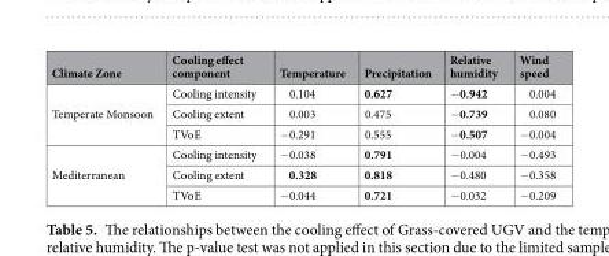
<table><thead><tr><td>Climate Zone</td><td>Cooling effect component</td><td>Temperature</td><td>Precipitation</td><td>Relative humidity</td><td>Wind speed</td></tr></thead><tbody><tr><td rowspan="3">Temperate Monsoon</td><td>Cooling intensity</td><td>0.104</td><td>0.627</td><td>−0.942</td><td>0.004</td></tr><tr><td>Cooling extent</td><td>0.003</td><td>0.475</td><td>−0.739</td><td>0.080</td></tr><tr><td>TVoE</td><td>−0.291</td><td>0.555</td><td>−0.507</td><td>−0.004</td></tr><tr><td rowspan="3">Mediterranean</td><td>Cooling intensity</td><td>−0.038</td><td>0.791</td><td>−0.004</td><td>−0.493</td></tr><tr><td>Cooling extent</td><td>0.328</td><td>0.818</td><td>−0.480</td><td>−0.358</td></tr><tr><td>TVoE</td><td>−0.044</td><td>0.721</td><td>−0.032</td><td>−0.209</td></tr></tbody></table>